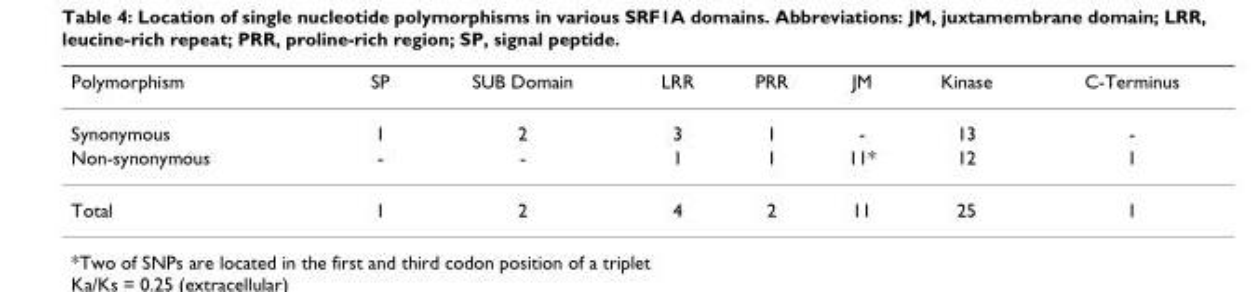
<table><thead><tr><td>Polymorphism</td><td>SP</td><td>SUB Domain</td><td>LRR</td><td>PRR</td><td>JM</td><td>Kinase</td><td>C-Terminus</td></tr></thead><tbody><tr><td>Synonymous</td><td>1</td><td>2</td><td>3</td><td>1</td><td>-</td><td>13</td><td>-</td></tr><tr><td>Non-synonymous</td><td>-</td><td>-</td><td>1</td><td>1</td><td>11*</td><td>12</td><td>1</td></tr><tr><td>Total</td><td>1</td><td>2</td><td>4</td><td>2</td><td>11</td><td>25</td><td>1</td></tr></tbody></table>